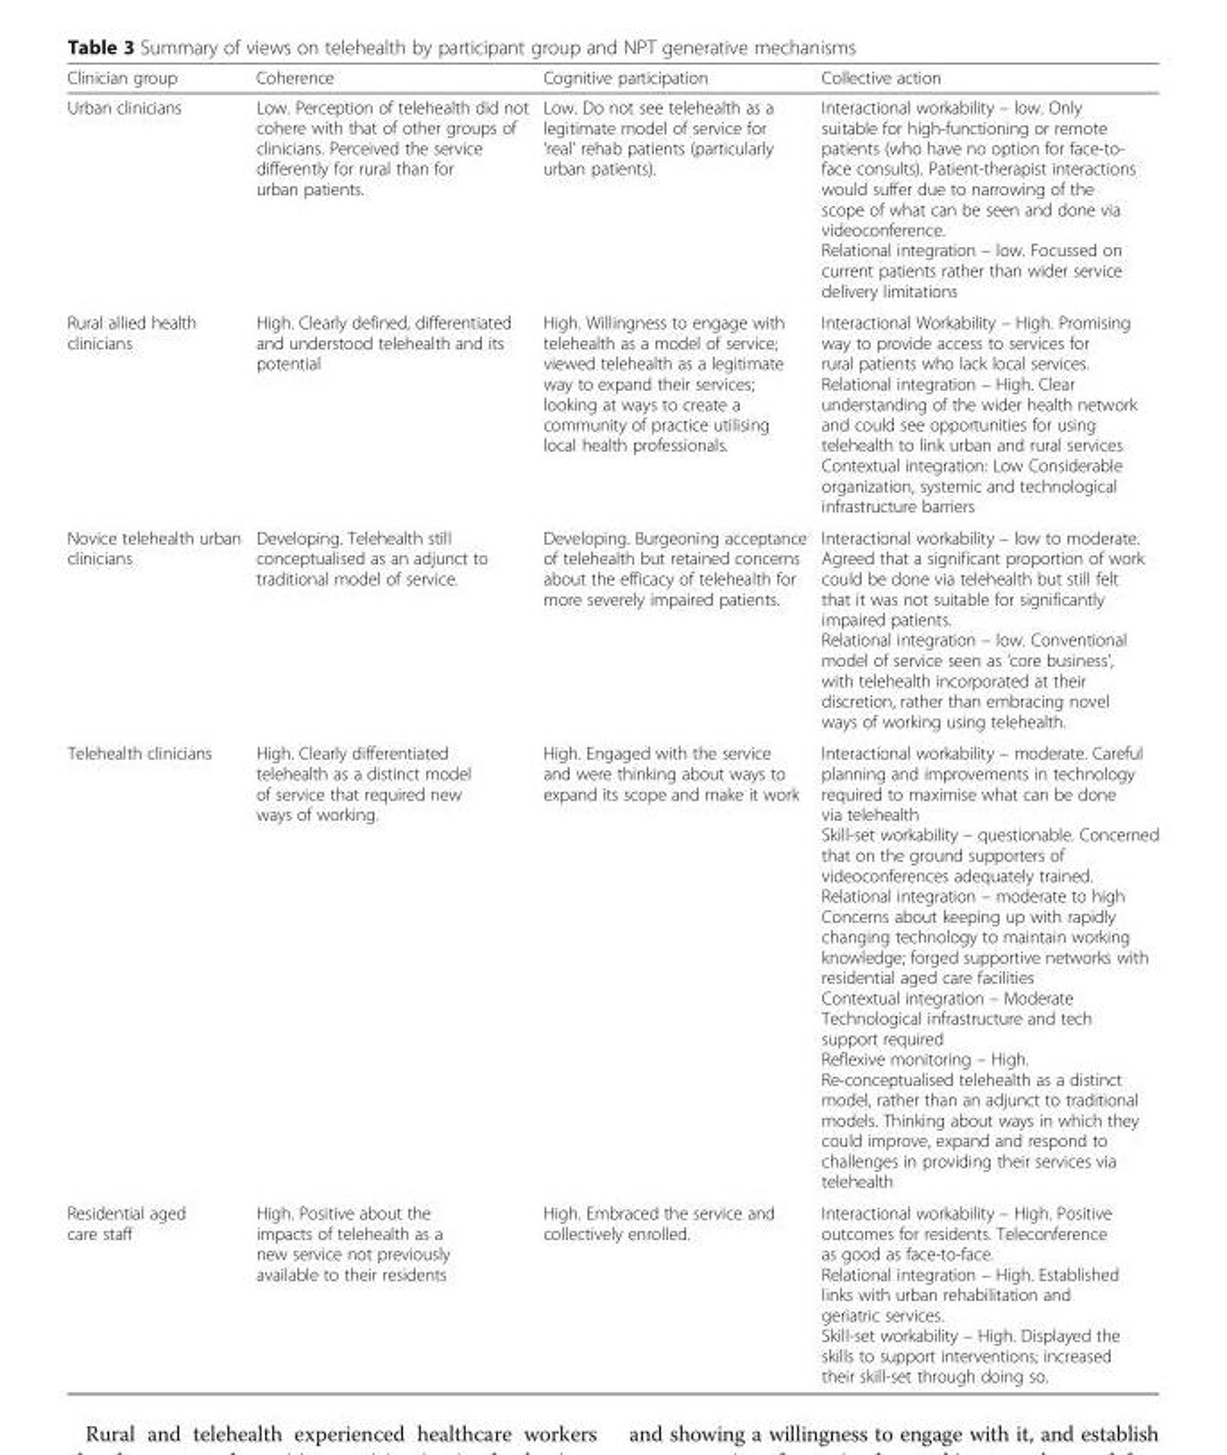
<table><thead><tr><td>Clinician group</td><td>Coherence</td><td>Cognitive participation</td><td>Collective action</td></tr></thead><tbody><tr><td>Urban clinicians</td><td>Low. Perception of telehealth did not cohere with that of other groups of clinicians. Perceived the service differently for rural than for urban patients.</td><td>Low. Do not see telehealth as a legitimate model of service for ‘real’ rehab patients (particularly urban patients).</td><td>Interactional workability – low. Only suitable for high-functioning or remote patients (who have no option for face-to- face consults). Patient-therapist interactions would suffer due to narrowing of the scope of what can be seen and done via videoconference. Relational integration – low. Focussed on current patients rather than wider service delivery limitations</td></tr><tr><td>Rural allied health clinicians</td><td>High. Clearly defined, differentiated and understood telehealth and its potential</td><td>High. Willingness to engage with telehealth as a model of service; viewed telehealth as a legitimate way to expand their services; looking at ways to create a community of practice utilising local health professionals.</td><td>Interactional Workability – High. Promising way to provide access to services for rural patients who lack local services. Relational integration – High. Clear understanding of the wider health network and could see opportunities for using telehealth to link urban and rural services Contextual integration: Low Considerable organization, systemic and technological infrastructure barriers</td></tr><tr><td>Novice telehealth urban clinicians</td><td>Developing. Telehealth still conceptualised as an adjunct to traditional model of service.</td><td>Developing. Burgeoning acceptance of telehealth but retained concerns about the efficacy of telehealth for more severely impaired patients.</td><td>Interactional workability – low to moderate. Agreed that a significant proportion of work could be done via telehealth but still felt that it was not suitable for significantly impaired patients. Relational integration – low. Conventional model of service seen as ‘core business’, with telehealth incorporated at their discretion, rather than embracing novel ways of working using telehealth.</td></tr><tr><td>Telehealth clinicians</td><td>High. Clearly differentiated telehealth as a distinct model of service that required new ways of working.</td><td>High. Engaged with the service and were thinking about ways to expand its scope and make it work</td><td>Interactional workability – moderate. Careful planning and improvements in technology required to maximise what can be done via telehealth Skill-set workability – questionable. Concerned that on the ground supporters of videoconferences adequately trained. Relational integration – moderate to high Concerns about keeping up with rapidly changing technology to maintain working knowledge; forged supportive networks with residential aged care facilities Contextual integration – Moderate Technological infrastructure and tech support required Reflexive monitoring – High. Re-conceptualised telehealth as a distinct model, rather than an adjunct to traditional models. Thinking about ways in which they could improve, expand and respond to challenges in providing their services via telehealth</td></tr><tr><td>Residential aged care staff</td><td>High. Positive about the impacts of telehealth as a new service not previously available to their residents</td><td>High. Embraced the service and collectively enrolled.</td><td>Interactional workability – High. Positive outcomes for residents. Teleconference as good as face-to-face. Relational integration – High. Established links with urban rehabilitation and geriatric services. Skill-set workability – High. Displayed the skills to support interventions; increased their skill-set through doing so.</td></tr></tbody></table>